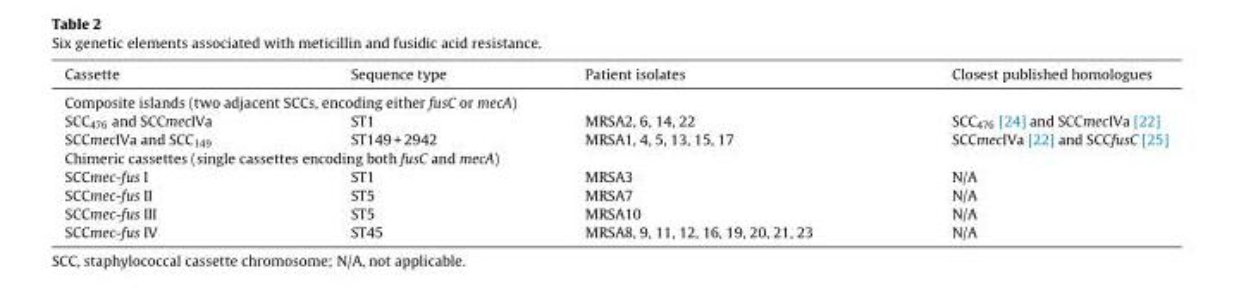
<table><thead><tr><td>Cassette</td><td>Sequence type</td><td>Patient isolates</td><td>Closest published homologues</td></tr></thead><tbody><tr><td colspan="4">Composite islands (two adjacent SCCs, encoding either fusC or mecA)</td></tr><tr><td>SCC<sub>476</sub> and SCCmecIVa</td><td>ST1</td><td>MRSA2, 6, 14, 22</td><td>SCC<sub>476</sub> [24] and SCCmecIVa [22]</td></tr><tr><td>SCCmecIVa and SCC<sub>149</sub></td><td>ST149 + 2942</td><td>MRSA1, 4, 5, 13, 15, 17</td><td>SCCmecIVa [22] and SCCfusC [25]</td></tr><tr><td colspan="4">Chimeric cassettes (single cassettes encoding both fusC and mecA)</td></tr><tr><td>SCCmec-fus I</td><td>ST1</td><td>MRSA3</td><td>N/A</td></tr><tr><td>SCCmec-fus II</td><td>ST5</td><td>MRSA7</td><td>N/A</td></tr><tr><td>SCCmec-fus III</td><td>ST5</td><td>MRSA10</td><td>N/A</td></tr><tr><td>SCCmec-fus IV</td><td>ST45</td><td>MRSA8, 9, 11, 12, 16, 19, 20, 21, 23</td><td>N/A</td></tr></tbody></table>